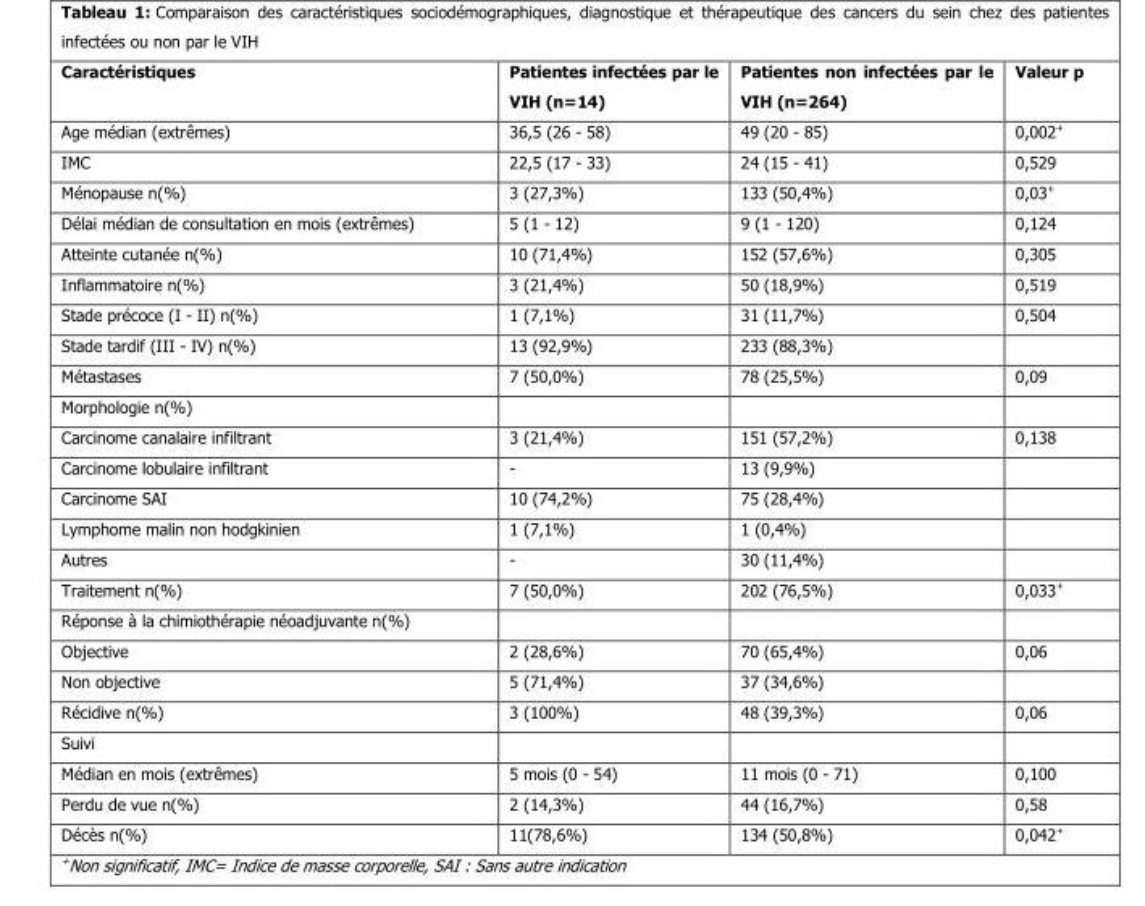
<table><thead><tr><td>Caractéristiques</td><td>Patientes infectées par le VIH (n=14)</td><td>Patientes non infectées par le VIH (n=264)</td><td>Valeur p</td></tr></thead><tbody><tr><td>Age médian (extrêmes)</td><td>36,5 (26 - 58)</td><td>49 (20 - 85)</td><td>0,002+</td></tr><tr><td>IMC</td><td>22,5 (17 - 33)</td><td>24 (15 - 41)</td><td>0,529</td></tr><tr><td>Ménopause n(%)</td><td>3 (27,3%)</td><td>133 (50,4%)</td><td>0,03+</td></tr><tr><td>Délai médian de consultation en mois (extrêmes)</td><td>5 (1 - 12)</td><td>9 (1 - 120)</td><td>0,124</td></tr><tr><td>Atteinte cutanée n(%)</td><td>10 (71,4%)</td><td>152 (57,6%)</td><td>0,305</td></tr><tr><td>Inflammatoire n(%)</td><td>3 (21,4%)</td><td>50 (18,9%)</td><td>0,519</td></tr><tr><td>Stade précoce (I - II) n(%)</td><td>1 (7,1%)</td><td>31 (11,7%)</td><td>0,504</td></tr><tr><td>Stade tardif (III - IV) n(%)</td><td>13 (92,9%)</td><td>233 (88,3%)</td><td></td></tr><tr><td>Métastases</td><td>7 (50,0%)</td><td>78 (25,5%)</td><td>0,09</td></tr><tr><td colspan="4">Morphologie n(%)</td></tr><tr><td>Carcinome canalaire infiltrant</td><td>3 (21,4%)</td><td>151 (57,2%)</td><td>0,138</td></tr><tr><td>Carcinome lobulaire infiltrant</td><td>-</td><td>13 (9,9%)</td><td></td></tr><tr><td>Carcinome SAI</td><td>10 (74,2%)</td><td>75 (28,4%)</td><td></td></tr><tr><td>Lymphome malin non hodgkinien</td><td>1 (7,1%)</td><td>1 (0,4%)</td><td></td></tr><tr><td>Autres</td><td>-</td><td>30 (11,4%)</td><td></td></tr><tr><td>Traitement n(%)</td><td>7 (50,0%)</td><td>202 (76,5%)</td><td>0,033+</td></tr><tr><td colspan="4">Réponse à la chimiothérapie néoadjuvante n(%)</td></tr><tr><td>Objective</td><td>2 (28,6%)</td><td>70 (65,4%)</td><td>0,06</td></tr><tr><td>Non objective</td><td>5 (71,4%)</td><td>37 (34,6%)</td><td></td></tr><tr><td>Récidive n(%)</td><td>3 (100%)</td><td>48 (39,3%)</td><td>0,06</td></tr><tr><td colspan="4">Suivi</td></tr><tr><td>Médian en mois (extrêmes)</td><td>5 mois (0 - 54)</td><td>11 mois (0 - 71)</td><td>0,100</td></tr><tr><td>Perdu de vue n(%)</td><td>2 (14,3%)</td><td>44 (16,7%)</td><td>0,58</td></tr><tr><td>Décès n(%)</td><td>11(78,6%)</td><td>134 (50,8%)</td><td>0,042+</td></tr></tbody></table>